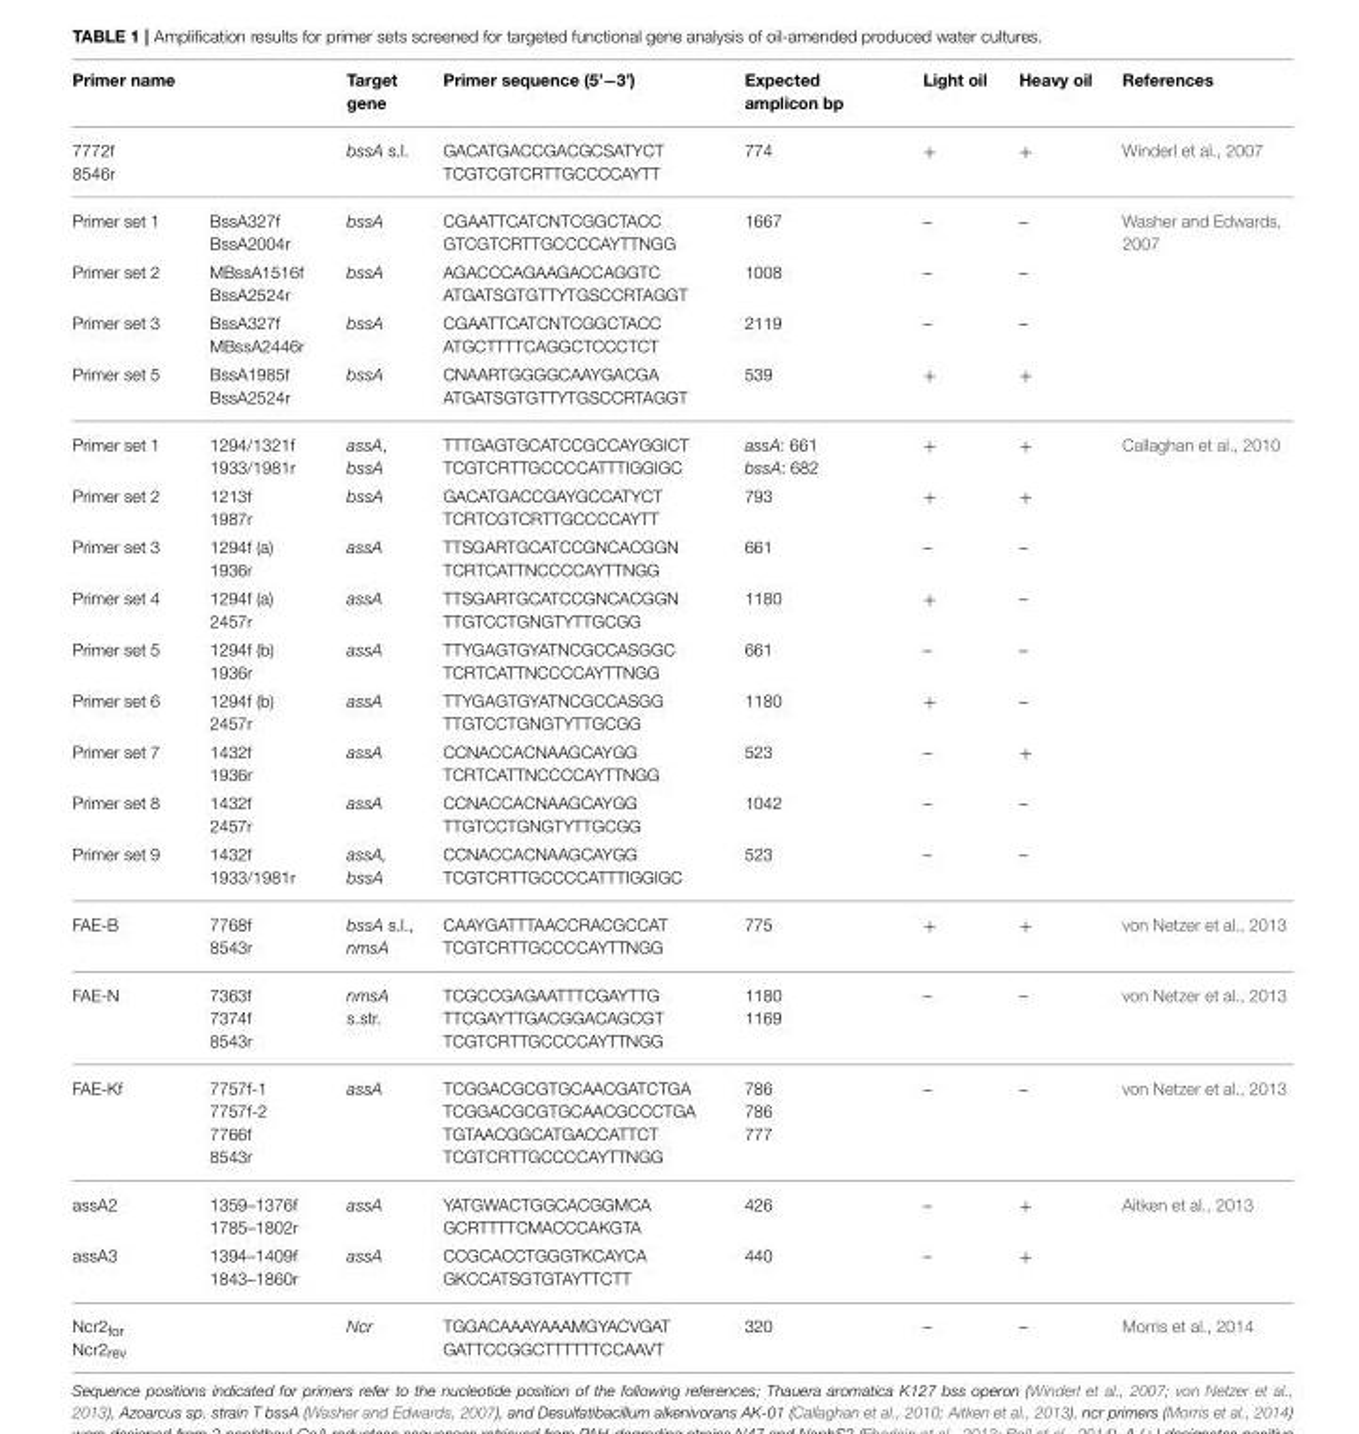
<table><thead><tr><td>Primer name</td><td></td><td>Target gene</td><td>Primer sequence (5’−3’)</td><td>Expected amplicon bp</td><td>Light oil</td><td>Heavy oil</td><td>References</td></tr></thead><tbody><tr><td>7772f 8546r</td><td></td><td>bssA s.l.</td><td>GACATGACCGACGCSATYCT TCGTCGTCRTTGCCCCAYTT</td><td>774</td><td>+</td><td>+</td><td>Winderl et al., 2007</td></tr><tr><td>Primer set 1</td><td>BssA327f BssA2004r</td><td>bssA</td><td>CGAATTCATCNTCGGCTACC GTCGTCRTTGCCCCAYTTNGG</td><td>1667</td><td>–</td><td>–</td><td>Washer and Edwards, 2007</td></tr><tr><td>Primer set 2</td><td>MBssA1516f BssA2524r</td><td>bssA</td><td>AGACCCAGAAGACCAGGTC ATGATSGTGTTYTGSCCRTAGGT</td><td>1008</td><td>–</td><td>–</td><td></td></tr><tr><td>Primer set 3</td><td>BssA327f MBssA2446r</td><td>bssA</td><td>CGAATTCATCNTCGGCTACC ATGCTTTTCAGGCTCCCTCT</td><td>2119</td><td>–</td><td>–</td><td></td></tr><tr><td>Primer set 5</td><td>BssA1985f BssA2524r</td><td>bssA</td><td>CNAARTGGGGCAAYGACGA ATGATSGTGTTYTGSCCRTAGGT</td><td>539</td><td>+</td><td>+</td><td></td></tr><tr><td>Primer set 1</td><td>1294/1321f 1933/1981r</td><td>assA, bssA</td><td>TTTGAGTGCATCCGCCAYGGICT TCGTCRTTGCCCCATTTIGGIGC</td><td>assA: 661 bssA: 682</td><td>+</td><td>+</td><td>Callaghan et al., 2010</td></tr><tr><td>Primer set 2</td><td>1213f 1987r</td><td>bssA</td><td>GACATGACCGAYGCCATYCT TCRTCGTCRTTGCCCCAYTT</td><td>793</td><td>+</td><td>+</td><td></td></tr><tr><td>Primer set 3</td><td>1294f (a) 1936r</td><td>assA</td><td>TTSGARTGCATCCGNCACGGN TCRTCATTNCCCCAYTTNGG</td><td>661</td><td>–</td><td>–</td><td></td></tr><tr><td>Primer set 4</td><td>1294f (a) 2457r</td><td>assA</td><td>TTSGARTGCATCCGNCACGGN TTGTCCTGNGTYTTGCGG</td><td>1180</td><td>+</td><td>–</td><td></td></tr><tr><td>Primer set 5</td><td>1294f (b) 1936r</td><td>assA</td><td>TTYGAGTGYATNCGCCASGGC TCRTCATTNCCCCAYTTNGG</td><td>661</td><td>–</td><td>–</td><td></td></tr><tr><td>Primer set 6</td><td>1294f (b) 2457r</td><td>assA</td><td>TTYGAGTGYATNCGCCASGG TTGTCCTGNGTYTTGCGG</td><td>1180</td><td>+</td><td>–</td><td></td></tr><tr><td>Primer set 7</td><td>1432f 1936r</td><td>assA</td><td>CCNACCACNAAGCAYGG TCRTCATTNCCCCAYTTNGG</td><td>523</td><td>–</td><td>+</td><td></td></tr><tr><td>Primer set 8</td><td>1432f 2457r</td><td>assA</td><td>CCNACCACNAAGCAYGG TTGTCCTGNGTYTTGCGG</td><td>1042</td><td>–</td><td>–</td><td></td></tr><tr><td>Primer set 9</td><td>1432f 1933/1981r</td><td>assA, bssA</td><td>CCNACCACNAAGCAYGG TCGTCRTTGCCCCATTTIGGIGC</td><td>523</td><td>–</td><td>–</td><td></td></tr><tr><td>FAE-B</td><td>7768f 8543r</td><td>bssA s.l., nmsA</td><td>CAAYGATTTAACCRACGCCAT TCGTCRTTGCCCCAYTTNGG</td><td>775</td><td>+</td><td>+</td><td>von Netzer et al., 2013</td></tr><tr><td>FAE-N</td><td>7363f 7374f 8543r</td><td>nmsA s.str.</td><td>TCGCCGAGAATTTCGAYTTG TTCGAYTTGACGGACAGCGT TCGTCRTTGCCCCAYTTNGG</td><td>1180 1169</td><td>–</td><td>–</td><td>von Netzer et al., 2013</td></tr><tr><td>FAE-Kf</td><td>7757f-1 7757f-2 7766f 8543r</td><td>assA</td><td>TCGGACGCGTGCAACGATCTGA TCGGACGCGTGCAACGCCCTGA TGTAACGGCATGACCATTCT TCGTCRTTGCCCCAYTTNGG</td><td>786 786 777</td><td>–</td><td>–</td><td>von Netzer et al., 2013</td></tr><tr><td>assA2</td><td>1359–1376f 1785–1802r</td><td>assA</td><td>YATGWACTGGCACGGMCA GCRTTTTCMACCCAKGTA</td><td>426</td><td>–</td><td>+</td><td>Aitken et al., 2013</td></tr><tr><td>assA3</td><td>1394–1409f 1843–1860r</td><td>assA</td><td>CCGCACCTGGGTKCAYCA GKCCATSGTGTAYTTCTT</td><td>440</td><td>–</td><td>+</td><td></td></tr><tr><td>Ncr2<sub>for</sub> Ncr2<sub>rev</sub></td><td></td><td>Ncr</td><td>TGGACAAAYAAAMGYACVGAT GATTCCGGCTTTTTTCCAAVT</td><td>320</td><td>–</td><td>–</td><td>Morris et al., 2014</td></tr></tbody></table>